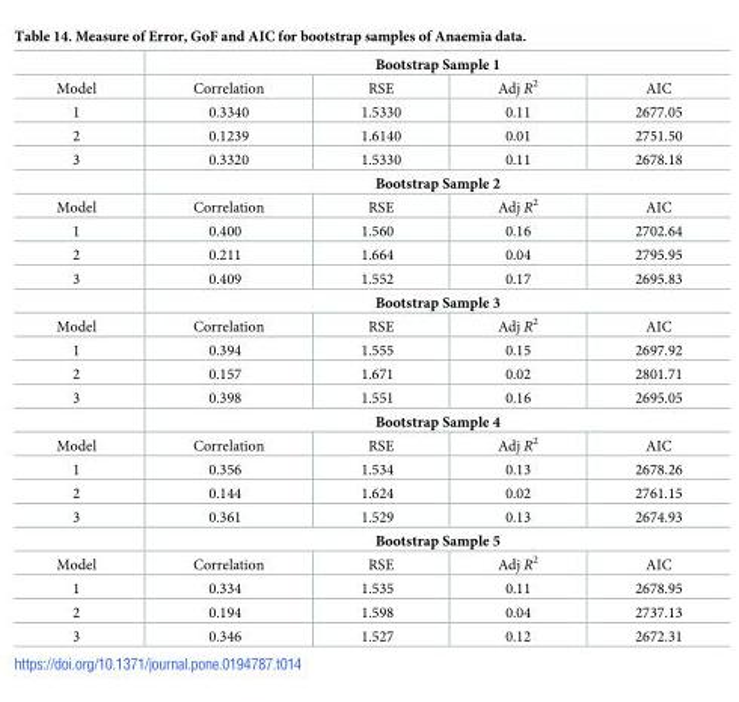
<table><thead><tr><td rowspan="2">Model</td><td colspan="4">Bootstrap Sample 1</td></tr><tr><td>Correlation</td><td>RSE</td><td>Adj R<sup>2</sup></td><td>AIC</td></tr></thead><tbody><tr><td>1</td><td>0.3340</td><td>1.5330</td><td>0.11</td><td>2677.05</td></tr><tr><td>2</td><td>0.1239</td><td>1.6140</td><td>0.01</td><td>2751.50</td></tr><tr><td rowspan="2">3</td><td>0.3320</td><td>1.5330</td><td>0.11</td><td>2678.18</td></tr><tr><td colspan="4">Bootstrap Sample 2</td></tr><tr><td>Model</td><td>Correlation</td><td>RSE</td><td>Adj R<sup>2</sup></td><td>AIC</td></tr><tr><td>1</td><td>0.400</td><td>1.560</td><td>0.16</td><td>2702.64</td></tr><tr><td>2</td><td>0.211</td><td>1.664</td><td>0.04</td><td>2795.95</td></tr><tr><td rowspan="2">3</td><td>0.409</td><td>1.552</td><td>0.17</td><td>2695.83</td></tr><tr><td colspan="4">Bootstrap Sample 3</td></tr><tr><td>Model</td><td>Correlation</td><td>RSE</td><td>Adj R<sup>2</sup></td><td>AIC</td></tr><tr><td>1</td><td>0.394</td><td>1.555</td><td>0.15</td><td>2697.92</td></tr><tr><td>2</td><td>0.157</td><td>1.671</td><td>0.02</td><td>2801.71</td></tr><tr><td rowspan="2">3</td><td>0.398</td><td>1.551</td><td>0.16</td><td>2695.05</td></tr><tr><td colspan="4">Bootstrap Sample 4</td></tr><tr><td>Model</td><td>Correlation</td><td>RSE</td><td>Adj R<sup>2</sup></td><td>AIC</td></tr><tr><td>1</td><td>0.356</td><td>1.534</td><td>0.13</td><td>2678.26</td></tr><tr><td>2</td><td>0.144</td><td>1.624</td><td>0.02</td><td>2761.15</td></tr><tr><td rowspan="2">3</td><td>0.361</td><td>1.529</td><td>0.13</td><td>2674.93</td></tr><tr><td colspan="4">Bootstrap Sample 5</td></tr><tr><td>Model</td><td>Correlation</td><td>RSE</td><td>Adj R<sup>2</sup></td><td>AIC</td></tr><tr><td>1</td><td>0.334</td><td>1.535</td><td>0.11</td><td>2678.95</td></tr><tr><td>2</td><td>0.194</td><td>1.598</td><td>0.04</td><td>2737.13</td></tr><tr><td>3</td><td>0.346</td><td>1.527</td><td>0.12</td><td>2672.31</td></tr></tbody></table>